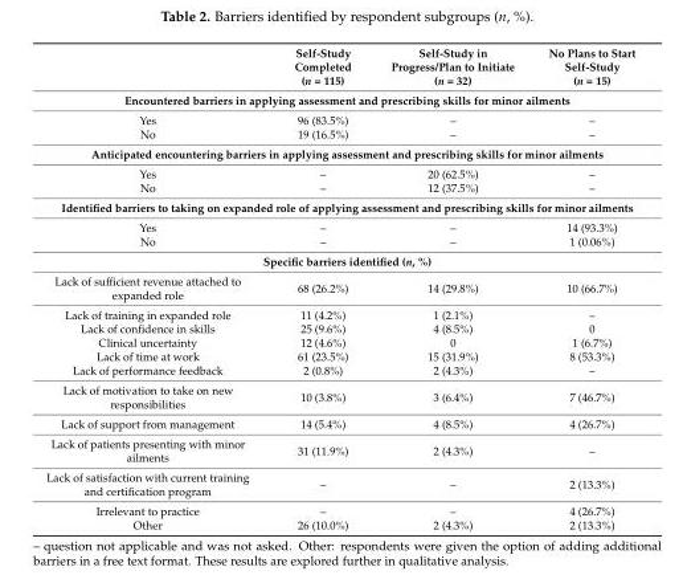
<table><thead><tr><td></td><td>Self-Study Completed (n = 115)</td><td>Self-Study in Progress/Plan to Initiate (n = 32)</td><td>No Plans to Start Self-Study (n = 15)</td></tr></thead><tbody><tr><td colspan="4">Encountered barriers in applying assessment and prescribing skills for minor ailments</td></tr><tr><td>Yes</td><td>96 (83.5%)</td><td>–</td><td>–</td></tr><tr><td>No</td><td>19 (16.5%)</td><td>–</td><td>–</td></tr><tr><td colspan="4">Anticipated encountering barriers in applying assessment and prescribing skills for minor ailments</td></tr><tr><td>Yes</td><td>–</td><td>20 (62.5%)</td><td>–</td></tr><tr><td>No</td><td>–</td><td>12 (37.5%)</td><td>–</td></tr><tr><td colspan="4">Identified barriers to taking on expanded role of applying assessment and prescribing skills for minor ailments</td></tr><tr><td>Yes</td><td>–</td><td>–</td><td>14 (93.3%)</td></tr><tr><td>No</td><td>–</td><td>–</td><td>1 (0.06%)</td></tr><tr><td colspan="4">Specific barriers identified (n, %)</td></tr><tr><td>Lack of sufficient revenue attached to expanded role</td><td>68 (26.2%)</td><td>14 (29.8%)</td><td>10 (66.7%)</td></tr><tr><td>Lack of training in expanded role</td><td>11 (4.2%)</td><td>1 (2.1%)</td><td>–</td></tr><tr><td>Lack of confidence in skills</td><td>25 (9.6%)</td><td>4 (8.5%)</td><td>0</td></tr><tr><td>Clinical uncertainty</td><td>12 (4.6%)</td><td>0</td><td>1 (6.7%)</td></tr><tr><td>Lack of time at work</td><td>61 (23.5%)</td><td>15 (31.9%)</td><td>8 (53.3%)</td></tr><tr><td>Lack of performance feedback</td><td>2 (0.8%)</td><td>2 (4.3%)</td><td>–</td></tr><tr><td>Lack of motivation to take on new responsibilities</td><td>10 (3.8%)</td><td>3 (6.4%)</td><td>7 (46.7%)</td></tr><tr><td>Lack of support from management</td><td>14 (5.4%)</td><td>4 (8.5%)</td><td>4 (26.7%)</td></tr><tr><td>Lack of patients presenting with minor ailments</td><td>31 (11.9%)</td><td>2 (4.3%)</td><td>–</td></tr><tr><td>Lack of satisfaction with current training and certification program</td><td>–</td><td>–</td><td>2 (13.3%)</td></tr><tr><td>Irrelevant to practice</td><td>–</td><td>–</td><td>4 (26.7%)</td></tr><tr><td>Other</td><td>26 (10.0%)</td><td>2 (4.3%)</td><td>2 (13.3%)</td></tr></tbody></table>